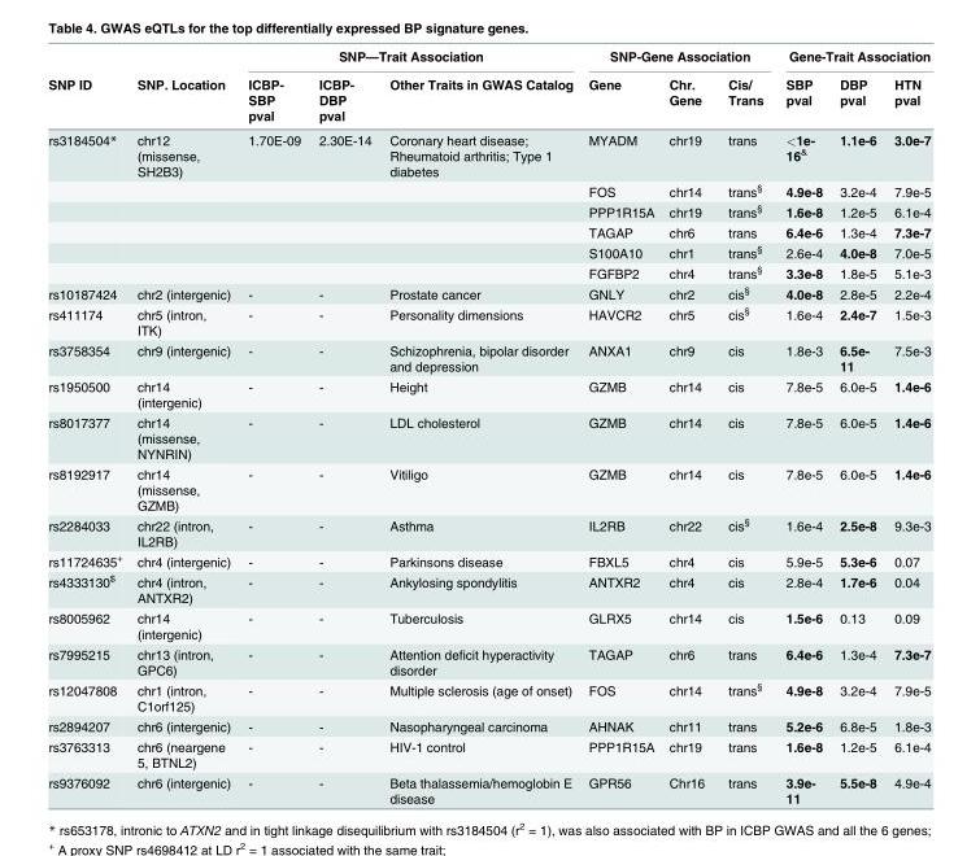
<table><thead><tr><td rowspan="2">SNP ID</td><td rowspan="2">SNP. Location</td><td colspan="3">SNP—Trait Association</td><td colspan="3">SNP-Gene Association</td><td colspan="3">Gene-Trait Association</td></tr><tr><td>ICBP- SBP pval</td><td>ICBP- DBP pval</td><td>Other Traits in GWAS Catalog</td><td>Gene</td><td>Chr. Gene</td><td>Cis/ Trans</td><td>SBP pval</td><td>DBP pval</td><td>HTN pval</td></tr></thead><tbody><tr><td rowspan="6">rs3184504*</td><td>chr12 (missense, SH2B3)</td><td>1.70E-09</td><td>2.30E-14</td><td>Coronary heart disease; Rheumatoid arthritis; Type 1 diabetes</td><td>MYADM</td><td>chr19</td><td>trans</td><td>&lt;1e- 16<sup>&amp;</sup></td><td>1.1e-6</td><td>3.0e-7</td></tr><tr><td></td><td></td><td></td><td></td><td>FOS</td><td>chr14</td><td>trans<sup>§</sup></td><td>4.9e-8</td><td>3.2e-4</td><td>7.9e-5</td></tr><tr><td></td><td></td><td></td><td></td><td>PPP1R15A</td><td>chr19</td><td>trans<sup>§</sup></td><td>1.6e-8</td><td>1.2e-5</td><td>6.1e-4</td></tr><tr><td></td><td></td><td></td><td></td><td>TAGAP</td><td>chr6</td><td>trans</td><td>6.4e-6</td><td>1.3e-4</td><td>7.3e-7</td></tr><tr><td></td><td></td><td></td><td></td><td>S100A10</td><td>chr1</td><td>trans<sup>§</sup></td><td>2.6e-4</td><td>4.0e-8</td><td>7.0e-5</td></tr><tr><td></td><td></td><td></td><td></td><td>FGFBP2</td><td>chr4</td><td>trans<sup>§</sup></td><td>3.3e-8</td><td>1.8e-5</td><td>5.1e-3</td></tr><tr><td>rs10187424</td><td>chr2 (intergenic)</td><td>-</td><td>-</td><td>Prostate cancer</td><td>GNLY</td><td>chr2</td><td>cis<sup>§</sup></td><td>4.0e-8</td><td>2.8e-5</td><td>2.2e-4</td></tr><tr><td>rs411174</td><td>chr5 (intron, ITK)</td><td>-</td><td>-</td><td>Personality dimensions</td><td>HAVCR2</td><td>chr5</td><td>cis<sup>§</sup></td><td>1.6e-4</td><td>2.4e-7</td><td>1.5e-3</td></tr><tr><td>rs3758354</td><td>chr9 (intergenic)</td><td>-</td><td>-</td><td>Schizophrenia, bipolar disorder and depression</td><td>ANXA1</td><td>chr9</td><td>cis</td><td>1.8e-3</td><td>6.5e- 11</td><td>7.5e-3</td></tr><tr><td>rs1950500</td><td>chr14 (intergenic)</td><td>-</td><td>-</td><td>Height</td><td>GZMB</td><td>chr14</td><td>cis</td><td>7.8e-5</td><td>6.0e-5</td><td>1.4e-6</td></tr><tr><td>rs8017377</td><td>chr14 (missense, NYNRIN)</td><td>-</td><td>-</td><td>LDL cholesterol</td><td>GZMB</td><td>chr14</td><td>cis</td><td>7.8e-5</td><td>6.0e-5</td><td>1.4e-6</td></tr><tr><td>rs8192917</td><td>chr14 (missense, GZMB)</td><td>-</td><td>-</td><td>Vitiligo</td><td>GZMB</td><td>chr14</td><td>cis</td><td>7.8e-5</td><td>6.0e-5</td><td>1.4e-6</td></tr><tr><td>rs2284033</td><td>chr22 (intron, IL2RB)</td><td>-</td><td>-</td><td>Asthma</td><td>IL2RB</td><td>chr22</td><td>cis<sup>§</sup></td><td>1.6e-4</td><td>2.5e-8</td><td>9.3e-3</td></tr><tr><td>rs11724635<sup>+</sup></td><td>chr4 (intergenic)</td><td>-</td><td>-</td><td>Parkinsons disease</td><td>FBXL5</td><td>chr4</td><td>cis</td><td>5.9e-5</td><td>5.3e-6</td><td>0.07</td></tr><tr><td>rs4333130<sup>$</sup></td><td>chr4 (intron, ANTXR2)</td><td>-</td><td>-</td><td>Ankylosing spondylitis</td><td>ANTXR2</td><td>chr4</td><td>cis</td><td>2.8e-4</td><td>1.7e-6</td><td>0.04</td></tr><tr><td>rs8005962</td><td>chr14 (intergenic)</td><td>-</td><td>-</td><td>Tuberculosis</td><td>GLRX5</td><td>chr14</td><td>cis</td><td>1.5e-6</td><td>0.13</td><td>0.09</td></tr><tr><td>rs7995215</td><td>chr13 (intron, GPC6)</td><td>-</td><td>-</td><td>Attention deficit hyperactivity disorder</td><td>TAGAP</td><td>chr6</td><td>trans</td><td>6.4e-6</td><td>1.3e-4</td><td>7.3e-7</td></tr><tr><td>rs12047808</td><td>chr1 (intron, C1orf125)</td><td>-</td><td>-</td><td>Multiple sclerosis (age of onset)</td><td>FOS</td><td>chr14</td><td>trans<sup>§</sup></td><td>4.9e-8</td><td>3.2e-4</td><td>7.9e-5</td></tr><tr><td>rs2894207</td><td>chr6 (intergenic)</td><td>-</td><td>-</td><td>Nasopharyngeal carcinoma</td><td>AHNAK</td><td>chr11</td><td>trans</td><td>5.2e-6</td><td>6.8e-5</td><td>1.8e-3</td></tr><tr><td>rs3763313</td><td>chr6 (neargene 5, BTNL2)</td><td>-</td><td>-</td><td>HIV-1 control</td><td>PPP1R15A</td><td>chr19</td><td>trans</td><td>1.6e-8</td><td>1.2e-5</td><td>6.1e-4</td></tr><tr><td>rs9376092</td><td>chr6 (intergenic)</td><td>-</td><td>-</td><td>Beta thalassemia/hemoglobin E disease</td><td>GPR56</td><td>Chr16</td><td>trans</td><td>3.9e- 11</td><td>5.5e-8</td><td>4.9e-4</td></tr></tbody></table>